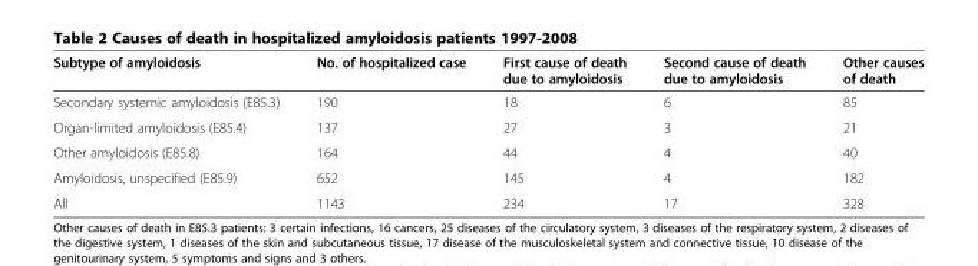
<table><thead><tr><td>Subtype of amyloidosis</td><td>No. of hospitalized case</td><td>First cause of death due to amyloidosis</td><td>Second cause of death due to amyloidosis</td><td>Other causes of death</td></tr></thead><tbody><tr><td>Secondary systemic amyloidosis (E85.3)</td><td>190</td><td>18</td><td>6</td><td>85</td></tr><tr><td>Organ-limited amyloidosis (E85.4)</td><td>137</td><td>27</td><td>3</td><td>21</td></tr><tr><td>Other amyloidosis (E85.8)</td><td>164</td><td>44</td><td>4</td><td>40</td></tr><tr><td>Amyloidosis, unspecified (E85.9)</td><td>652</td><td>145</td><td>4</td><td>182</td></tr><tr><td>All</td><td>1143</td><td>234</td><td>17</td><td>328</td></tr></tbody></table>